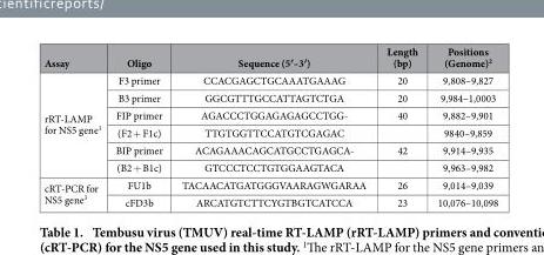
<table><thead><tr><td>Assay</td><td>Oligo</td><td>Sequence (5′–3′)</td><td>Length (bp)</td><td>Positions (Genome)<sup>2</sup></td></tr></thead><tbody><tr><td rowspan="6">rRT-LAMP for NS5 gene<sup>1</sup></td><td>F3 primer</td><td>CCACGAGCTGCAAATGAAAG</td><td>20</td><td>9,808–9,827</td></tr><tr><td>B3 primer</td><td>GGCGTTTGCCATTAGTCTGA</td><td>20</td><td>9,984–1,0003</td></tr><tr><td>FIP primer</td><td>AGACCCTGGAGAGAGCCTGG-</td><td>40</td><td>9,882–9,901</td></tr><tr><td>(F2 + F1c)</td><td>TTGTGGTTCCATGTCGAGAC</td><td></td><td>9840–9,859</td></tr><tr><td>BIP primer</td><td>ACAGAAACAGCATGCCTGAGCA-</td><td>42</td><td>9,914–9,935</td></tr><tr><td>(B2 + B1c)</td><td>GTCCCTCCTGTGGAAGTACA</td><td></td><td>9,963–9,982</td></tr><tr><td rowspan="2">cRT-PCR for NS5 gene<sup>3</sup></td><td>FU1b</td><td>TACAACATGATGGGVAARAGWGARAA</td><td>26</td><td>9,014–9,039</td></tr><tr><td>cFD3b</td><td>ARCATGTCTTCYGTBGTCATCCA</td><td>23</td><td>10,076–10,098</td></tr></tbody></table>